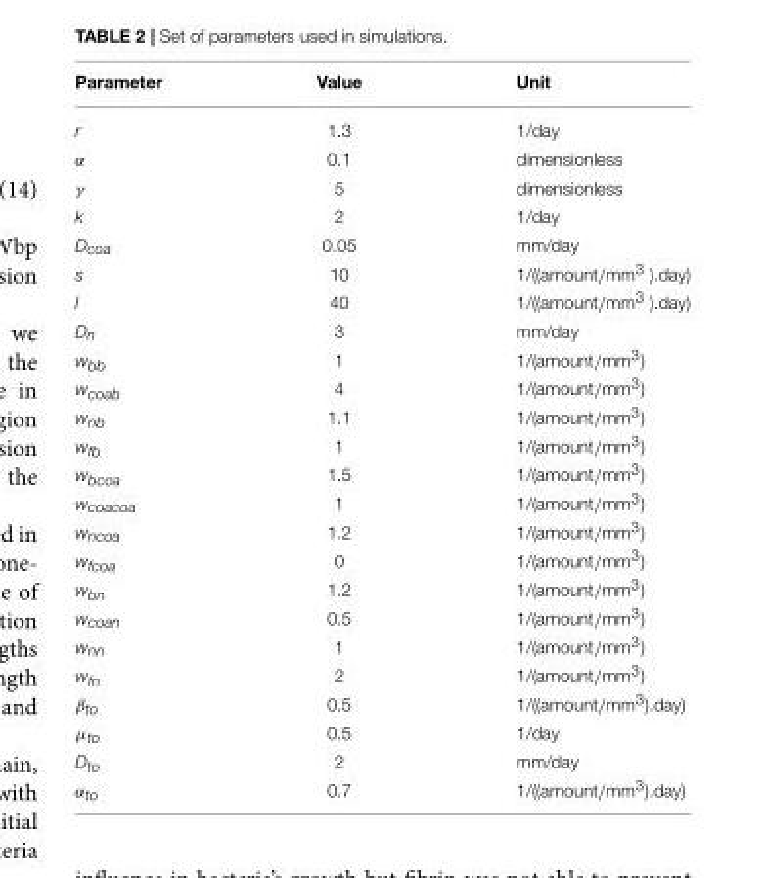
<table><thead><tr><td>Parameter</td><td>Value</td><td>Unit</td></tr></thead><tbody><tr><td>r</td><td>1.3</td><td>1/day</td></tr><tr><td>α</td><td>0.1</td><td>dimensionless</td></tr><tr><td>γ</td><td>5</td><td>dimensionless</td></tr><tr><td>k</td><td>2</td><td>1/day</td></tr><tr><td>D<sub>coa</sub></td><td>0.05</td><td>mm/day</td></tr><tr><td>s</td><td>10</td><td>1/((amount/mm<sup>3</sup> ).day)</td></tr><tr><td>l</td><td>40</td><td>1/((amount/mm<sup>3</sup> ).day)</td></tr><tr><td>D<sub>n</sub></td><td>3</td><td>mm/day</td></tr><tr><td>w<sub>bb</sub></td><td>1</td><td>1/(amount/mm<sup>3</sup>)</td></tr><tr><td>w<sub>coab</sub></td><td>4</td><td>1/(amount/mm<sup>3</sup>)</td></tr><tr><td>w<sub>nb</sub></td><td>1.1</td><td>1/(amount/mm<sup>3</sup>)</td></tr><tr><td>w<sub>fb</sub></td><td>1</td><td>1/(amount/mm<sup>3</sup>)</td></tr><tr><td>w<sub>bcoa</sub></td><td>1.5</td><td>1/(amount/mm<sup>3</sup>)</td></tr><tr><td>w<sub>coacoa</sub></td><td>1</td><td>1/(amount/mm<sup>3</sup>)</td></tr><tr><td>w<sub>ncoa</sub></td><td>1.2</td><td>1/(amount/mm<sup>3</sup>)</td></tr><tr><td>w<sub>fcoa</sub></td><td>0</td><td>1/(amount/mm<sup>3</sup>)</td></tr><tr><td>w<sub>bn</sub></td><td>1.2</td><td>1/(amount/mm<sup>3</sup>)</td></tr><tr><td>w<sub>coan</sub></td><td>0.5</td><td>1/(amount/mm<sup>3</sup>)</td></tr><tr><td>w<sub>nn</sub></td><td>1</td><td>1/(amount/mm<sup>3</sup>)</td></tr><tr><td>w<sub>fn</sub></td><td>2</td><td>1/(amount/mm<sup>3</sup>)</td></tr><tr><td>β<sub>to</sub></td><td>0.5</td><td>1/((amount/mm<sup>3</sup>).day)</td></tr><tr><td>µ<sub>to</sub></td><td>0.5</td><td>1/day</td></tr><tr><td>D<sub>to</sub></td><td>2</td><td>mm/day</td></tr><tr><td>α<sub>to</sub></td><td>0.7</td><td>1/((amount/mm<sup>3</sup>).day)</td></tr></tbody></table>